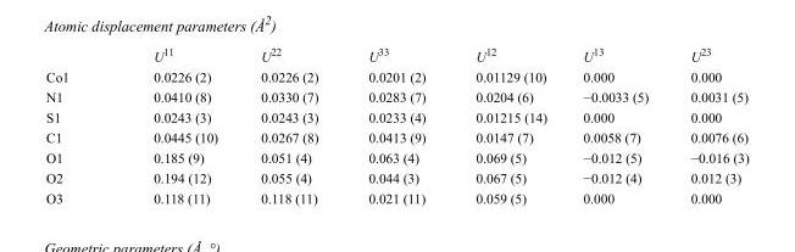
<table><thead><tr><td></td><td>U<sup>11</sup></td><td>U<sup>22</sup></td><td>U<sup>33</sup></td><td>U<sup>12</sup></td><td>U<sup>13</sup></td><td>U<sup>23</sup></td></tr></thead><tbody><tr><td>Co1</td><td>0.0226 (2)</td><td>0.0226 (2)</td><td>0.0201 (2)</td><td>0.01129 (10)</td><td>0.000</td><td>0.000</td></tr><tr><td>N1</td><td>0.0410 (8)</td><td>0.0330 (7)</td><td>0.0283 (7)</td><td>0.0204 (6)</td><td>−0.0033 (5)</td><td>0.0031 (5)</td></tr><tr><td>S1</td><td>0.0243 (3)</td><td>0.0243 (3)</td><td>0.0233 (4)</td><td>0.01215 (14)</td><td>0.000</td><td>0.000</td></tr><tr><td>C1</td><td>0.0445 (10)</td><td>0.0267 (8)</td><td>0.0413 (9)</td><td>0.0147 (7)</td><td>0.0058 (7)</td><td>0.0076 (6)</td></tr><tr><td>O1</td><td>0.185 (9)</td><td>0.051 (4)</td><td>0.063 (4)</td><td>0.069 (5)</td><td>−0.012 (5)</td><td>−0.016 (3)</td></tr><tr><td>O2</td><td>0.194 (12)</td><td>0.055 (4)</td><td>0.044 (3)</td><td>0.067 (5)</td><td>−0.012 (4)</td><td>0.012 (3)</td></tr><tr><td>O3</td><td>0.118 (11)</td><td>0.118 (11)</td><td>0.021 (11)</td><td>0.059 (5)</td><td>0.000</td><td>0.000</td></tr></tbody></table>